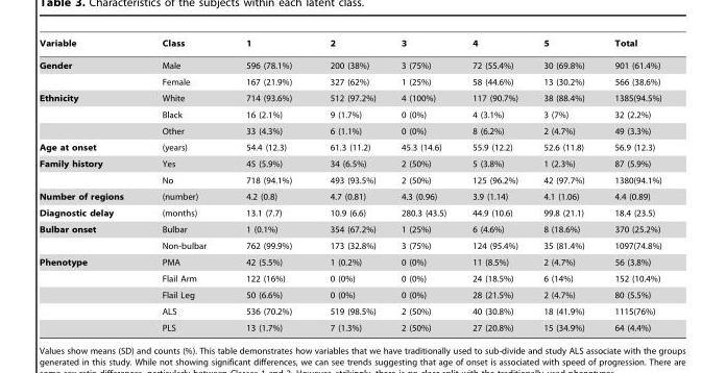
<table><thead><tr><td>Variable</td><td>Class</td><td>1</td><td>2</td><td>3</td><td>4</td><td>5</td><td>Total</td></tr></thead><tbody><tr><td rowspan="2">Gender</td><td>Male</td><td>596 (78.1%)</td><td>200 (38%)</td><td>3 (75%)</td><td>72 (55.4%)</td><td>30 (69.8%)</td><td>901 (61.4%)</td></tr><tr><td>Female</td><td>167 (21.9%)</td><td>327 (62%)</td><td>1 (25%)</td><td>58 (44.6%)</td><td>13 (30.2%)</td><td>566 (38.6%)</td></tr><tr><td rowspan="3">Ethnicity</td><td>White</td><td>714 (93.6%)</td><td>512 (97.2%)</td><td>4 (100%)</td><td>117 (90.7%)</td><td>38 (88.4%)</td><td>1385(94.5%)</td></tr><tr><td>Black</td><td>16 (2.1%)</td><td>9 (1.7%)</td><td>0 (0%)</td><td>4 (3.1%)</td><td>3 (7%)</td><td>32 (2.2%)</td></tr><tr><td>Other</td><td>33 (4.3%)</td><td>6 (1.1%)</td><td>0 (0%)</td><td>8 (6.2%)</td><td>2 (4.7%)</td><td>49 (3.3%)</td></tr><tr><td>Age at onset</td><td>(years)</td><td>54.4 (12.3)</td><td>61.3 (11.2)</td><td>45.3 (14.6)</td><td>55.9 (12.2)</td><td>52.6 (11.8)</td><td>56.9 (12.3)</td></tr><tr><td rowspan="2">Family history</td><td>Yes</td><td>45 (5.9%)</td><td>34 (6.5%)</td><td>2 (50%)</td><td>5 (3.8%)</td><td>1 (2.3%)</td><td>87 (5.9%)</td></tr><tr><td>No</td><td>718 (94.1%)</td><td>493 (93.5%)</td><td>2 (50%)</td><td>125 (96.2%)</td><td>42 (97.7%)</td><td>1380(94.1%)</td></tr><tr><td>Number of regions</td><td>(number)</td><td>4.2 (0.8)</td><td>4.7 (0.81)</td><td>4.3 (0.96)</td><td>3.9 (1.14)</td><td>4.1 (1.06)</td><td>4.4 (0.89)</td></tr><tr><td>Diagnostic delay</td><td>(months)</td><td>13.1 (7.7)</td><td>10.9 (6.6)</td><td>280.3 (43.5)</td><td>44.9 (10.6)</td><td>99.8 (21.1)</td><td>18.4 (23.5)</td></tr><tr><td rowspan="2">Bulbar onset</td><td>Bulbar</td><td>1 (0.1%)</td><td>354 (67.2%)</td><td>1 (25%)</td><td>6 (4.6%)</td><td>8 (18.6%)</td><td>370 (25.2%)</td></tr><tr><td>Non-bulbar</td><td>762 (99.9%)</td><td>173 (32.8%)</td><td>3 (75%)</td><td>124 (95.4%)</td><td>35 (81.4%)</td><td>1097(74.8%)</td></tr><tr><td rowspan="5">Phenotype</td><td>PMA</td><td>42 (5.5%)</td><td>1 (0.2%)</td><td>0 (0%)</td><td>11 (8.5%)</td><td>2 (4.7%)</td><td>56 (3.8%)</td></tr><tr><td>Flail Arm</td><td>122 (16%)</td><td>0 (0%)</td><td>0 (0%)</td><td>24 (18.5%)</td><td>6 (14%)</td><td>152 (10.4%)</td></tr><tr><td>Flail Leg</td><td>50 (6.6%)</td><td>0 (0%)</td><td>0 (0%)</td><td>28 (21.5%)</td><td>2 (4.7%)</td><td>80 (5.5%)</td></tr><tr><td>ALS</td><td>536 (70.2%)</td><td>519 (98.5%)</td><td>2 (50%)</td><td>40 (30.8%)</td><td>18 (41.9%)</td><td>1115(76%)</td></tr><tr><td>PLS</td><td>13 (1.7%)</td><td>7 (1.3%)</td><td>2 (50%)</td><td>27 (20.8%)</td><td>15 (34.9%)</td><td>64 (4.4%)</td></tr></tbody></table>